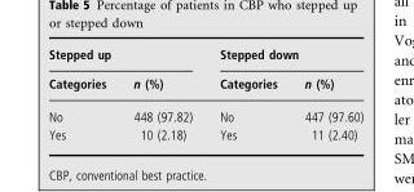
<table><thead><tr><td colspan="2">Stepped up</td><td colspan="2">Stepped down</td></tr><tr><td>Categories</td><td>n (%)</td><td>Categories</td><td>n (%)</td></tr></thead><tbody><tr><td>No</td><td>448 (97.82)</td><td>No</td><td>447 (97.60)</td></tr><tr><td>Yes</td><td>10 (2.18)</td><td>Yes</td><td>11 (2.40)</td></tr></tbody></table>